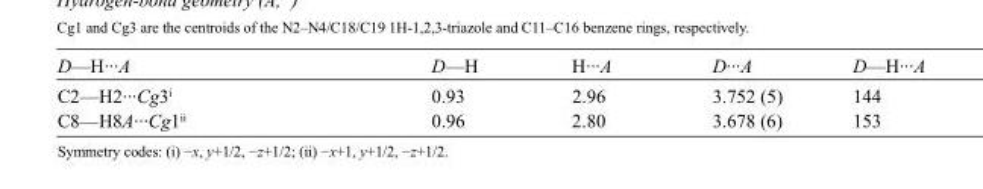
<table><tbody><tr><td>D—H···A</td><td>D—H</td><td>H···A</td><td>D···A</td><td>D—H···A</td></tr><tr><td>C2—H2···Cg3<sup>i</sup></td><td>0.93</td><td>2.96</td><td>3.752 (5)</td><td>144</td></tr><tr><td>C8—H8A···Cg1<sup>ii</sup></td><td>0.96</td><td>2.80</td><td>3.678 (6)</td><td>153</td></tr></tbody></table>